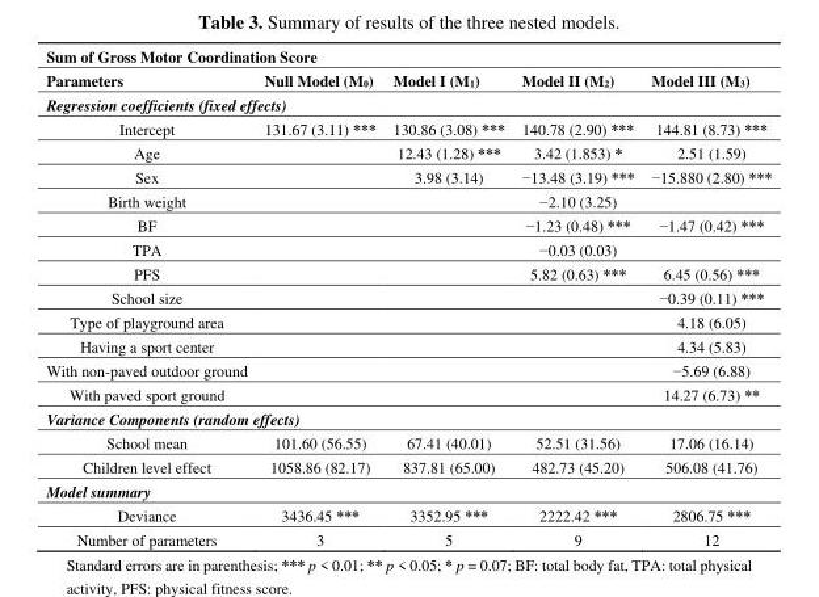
<table><thead><tr><td colspan="5">Sum of Gross Motor Coordination Score</td></tr><tr><td>Parameters</td><td>Null Model (M<sub>0</sub>)</td><td>Model I (M<sub>1</sub>)</td><td>Model II (M<sub>2</sub>)</td><td>Model III (M<sub>3</sub>)</td></tr></thead><tbody><tr><td colspan="5">Regression coefficients (fixed effects)</td></tr><tr><td>Intercept</td><td>131.67 (3.11) ***</td><td>130.86 (3.08) ***</td><td>140.78 (2.90) ***</td><td>144.81 (8.73) ***</td></tr><tr><td>Age</td><td></td><td>12.43 (1.28) ***</td><td>3.42 (1.853) *</td><td>2.51 (1.59)</td></tr><tr><td>Sex</td><td></td><td>3.98 (3.14)</td><td>−13.48 (3.19) ***</td><td>−15.880 (2.80) ***</td></tr><tr><td>Birth weight</td><td></td><td></td><td>−2.10 (3.25)</td><td></td></tr><tr><td>BF</td><td></td><td></td><td>−1.23 (0.48) ***</td><td>−1.47 (0.42) ***</td></tr><tr><td>TPA</td><td></td><td></td><td>−0.03 (0.03)</td><td></td></tr><tr><td>PFS</td><td></td><td></td><td>5.82 (0.63) ***</td><td>6.45 (0.56) ***</td></tr><tr><td>School size</td><td></td><td></td><td></td><td>−0.39 (0.11) ***</td></tr><tr><td>Type of playground area</td><td></td><td></td><td></td><td>4.18 (6.05)</td></tr><tr><td>Having a sport center</td><td></td><td></td><td></td><td>4.34 (5.83)</td></tr><tr><td>With non-paved outdoor ground</td><td></td><td></td><td></td><td>−5.69 (6.88)</td></tr><tr><td>With paved sport ground</td><td></td><td></td><td></td><td>14.27 (6.73) **</td></tr><tr><td colspan="5">Variance Components (random effects)</td></tr><tr><td>School mean</td><td>101.60 (56.55)</td><td>67.41 (40.01)</td><td>52.51 (31.56)</td><td>17.06 (16.14)</td></tr><tr><td>Children level effect</td><td>1058.86 (82.17)</td><td>837.81 (65.00)</td><td>482.73 (45.20)</td><td>506.08 (41.76)</td></tr><tr><td colspan="5">Model summary</td></tr><tr><td>Deviance</td><td>3436.45 ***</td><td>3352.95 ***</td><td>2222.42 ***</td><td>2806.75 ***</td></tr><tr><td>Number of parameters</td><td>3</td><td>5</td><td>9</td><td>12</td></tr></tbody></table>